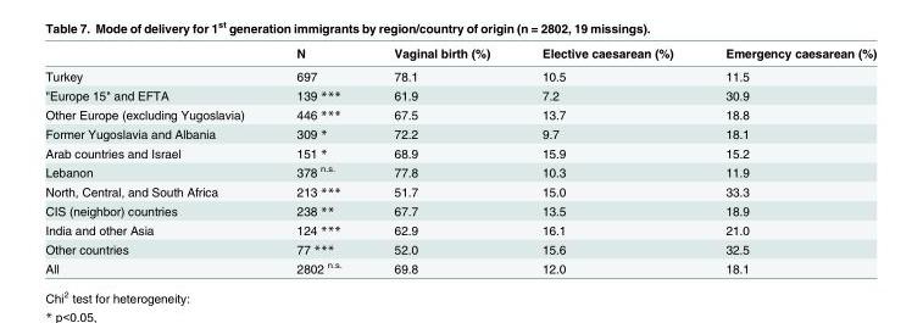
<table><thead><tr><td></td><td>N</td><td>Vaginal birth (%)</td><td>Elective caesarean (%)</td><td>Emergency caesarean (%)</td></tr></thead><tbody><tr><td>Turkey</td><td>697</td><td>78.1</td><td>10.5</td><td>11.5</td></tr><tr><td>&quot;Europe 15&quot; and EFTA</td><td>139 ***</td><td>61.9</td><td>7.2</td><td>30.9</td></tr><tr><td>Other Europe (excluding Yugoslavia)</td><td>446 ***</td><td>67.5</td><td>13.7</td><td>18.8</td></tr><tr><td>Former Yugoslavia and Albania</td><td>309 *</td><td>72.2</td><td>9.7</td><td>18.1</td></tr><tr><td>Arab countries and Israel</td><td>151 *</td><td>68.9</td><td>15.9</td><td>15.2</td></tr><tr><td>Lebanon</td><td>378 <sup>n.s.</sup></td><td>77.8</td><td>10.3</td><td>11.9</td></tr><tr><td>North, Central, and South Africa</td><td>213 ***</td><td>51.7</td><td>15.0</td><td>33.3</td></tr><tr><td>CIS (neighbor) countries</td><td>238 **</td><td>67.7</td><td>13.5</td><td>18.9</td></tr><tr><td>India and other Asia</td><td>124 ***</td><td>62.9</td><td>16.1</td><td>21.0</td></tr><tr><td>Other countries</td><td>77 ***</td><td>52.0</td><td>15.6</td><td>32.5</td></tr><tr><td>All</td><td>2802 <sup>n.s.</sup></td><td>69.8</td><td>12.0</td><td>18.1</td></tr></tbody></table>